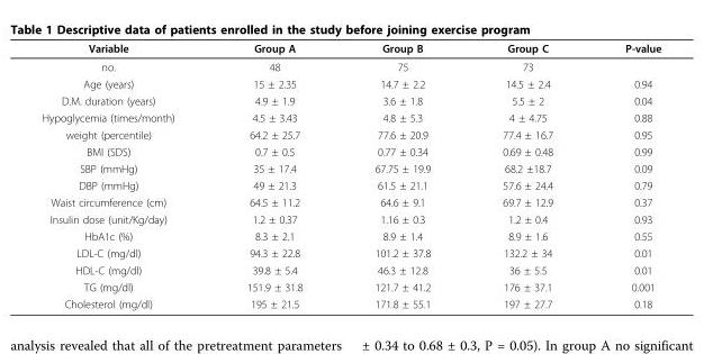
<table><thead><tr><td>Variable</td><td>Group A</td><td>Group B</td><td>Group C</td><td>P-value</td></tr></thead><tbody><tr><td>no.</td><td>48</td><td>75</td><td>73</td><td></td></tr><tr><td>Age (years)</td><td>15 ± 2.35</td><td>14.7 ± 2.2</td><td>14.5 ± 2.4</td><td>0.94</td></tr><tr><td>D.M. duration (years)</td><td>4.9 ± 1.9</td><td>3.6 ± 1.8</td><td>5.5 ± 2</td><td>0.04</td></tr><tr><td>Hypoglycemia (times/month)</td><td>4.5 ± 3.43</td><td>4.8 ± 5.3</td><td>4 ± 4.75</td><td>0.88</td></tr><tr><td>weight (percentile)</td><td>64.2 ± 25.7</td><td>77.6 ± 20.9</td><td>77.4 ± 16.7</td><td>0.95</td></tr><tr><td>BMI (SDS)</td><td>0.7 ± 0.5</td><td>0.77 ± 0.34</td><td>0.69 ± 0.48</td><td>0.99</td></tr><tr><td>SBP (mmHg)</td><td>35 ± 17.4</td><td>67.75 ± 19.9</td><td>68.2 ±18.7</td><td>0.09</td></tr><tr><td>DBP (mmHg)</td><td>49 ± 21.3</td><td>61.5 ± 21.1</td><td>57.6 ± 24.4</td><td>0.79</td></tr><tr><td>Waist circumference (cm)</td><td>64.5 ± 11.2</td><td>64.6 ± 9.1</td><td>69.7 ± 12.9</td><td>0.37</td></tr><tr><td>Insulin dose (unit/Kg/day)</td><td>1.2 ± 0.37</td><td>1.16 ± 0.3</td><td>1.2 ± 0.4</td><td>0.93</td></tr><tr><td>HbA1c (%)</td><td>8.3 ± 2.1</td><td>8.9 ± 1.4</td><td>8.9 ± 1.6</td><td>0.55</td></tr><tr><td>LDL-C (mg/dl)</td><td>94.3 ± 22.8</td><td>101.2 ± 37.8</td><td>132.2 ± 34</td><td>0.01</td></tr><tr><td>HDL-C (mg/dl)</td><td>39.8 ± 5.4</td><td>46.3 ± 12.8</td><td>36 ± 5.5</td><td>0.01</td></tr><tr><td>TG (mg/dl)</td><td>151.9 ± 31.8</td><td>121.7 ± 41.2</td><td>176 ± 37.1</td><td>0.001</td></tr><tr><td>Cholesterol (mg/dl)</td><td>195 ± 21.5</td><td>171.8 ± 55.1</td><td>197 ± 27.7</td><td>0.18</td></tr></tbody></table>